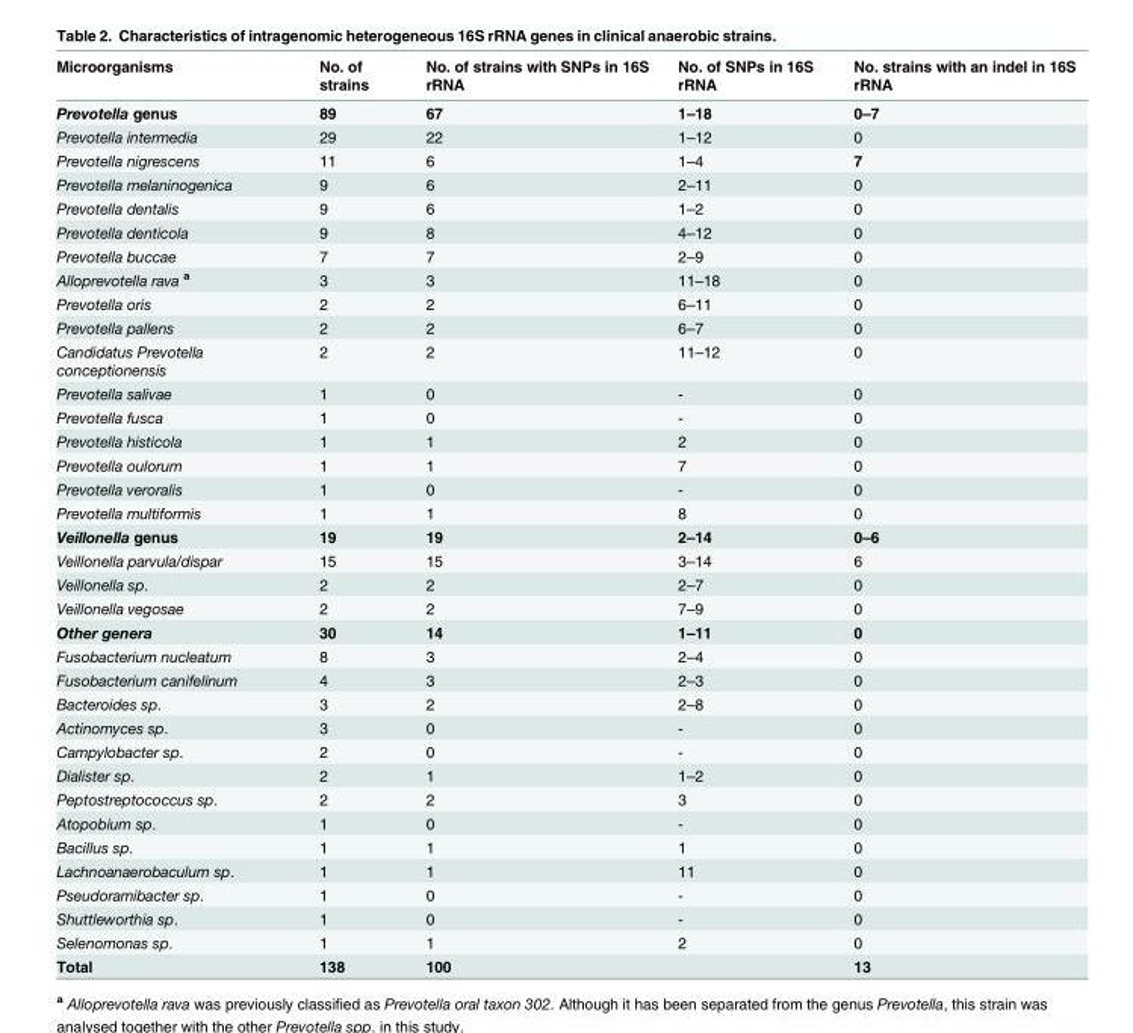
<table><thead><tr><td>Microorganisms</td><td>No. of strains</td><td>No. of strains with SNPs in 16S rRNA</td><td>No. of SNPs in 16S rRNA</td><td>No. strains with an indel in 16S rRNA</td></tr></thead><tbody><tr><td>Prevotella genus</td><td>89</td><td>67</td><td>1–18</td><td>0–7</td></tr><tr><td>Prevotella intermedia</td><td>29</td><td>22</td><td>1–12</td><td>0</td></tr><tr><td>Prevotella nigrescens</td><td>11</td><td>6</td><td>1–4</td><td>7</td></tr><tr><td>Prevotella melaninogenica</td><td>9</td><td>6</td><td>2–11</td><td>0</td></tr><tr><td>Prevotella dentalis</td><td>9</td><td>6</td><td>1–2</td><td>0</td></tr><tr><td>Prevotella denticola</td><td>9</td><td>8</td><td>4–12</td><td>0</td></tr><tr><td>Prevotella buccae</td><td>7</td><td>7</td><td>2–9</td><td>0</td></tr><tr><td>Alloprevotella rava <sup>a</sup></td><td>3</td><td>3</td><td>11–18</td><td>0</td></tr><tr><td>Prevotella oris</td><td>2</td><td>2</td><td>6–11</td><td>0</td></tr><tr><td>Prevotella pallens</td><td>2</td><td>2</td><td>6–7</td><td>0</td></tr><tr><td>Candidatus Prevotella conceptionensis</td><td>2</td><td>2</td><td>11–12</td><td>0</td></tr><tr><td>Prevotella salivae</td><td>1</td><td>0</td><td>-</td><td>0</td></tr><tr><td>Prevotella fusca</td><td>1</td><td>0</td><td>-</td><td>0</td></tr><tr><td>Prevotella histicola</td><td>1</td><td>1</td><td>2</td><td>0</td></tr><tr><td>Prevotella oulorum</td><td>1</td><td>1</td><td>7</td><td>0</td></tr><tr><td>Prevotella veroralis</td><td>1</td><td>0</td><td>-</td><td>0</td></tr><tr><td>Prevotella multiformis</td><td>1</td><td>1</td><td>8</td><td>0</td></tr><tr><td>Veillonella genus</td><td>19</td><td>19</td><td>2–14</td><td>0–6</td></tr><tr><td>Veillonella parvula/dispar</td><td>15</td><td>15</td><td>3–14</td><td>6</td></tr><tr><td>Veillonella sp.</td><td>2</td><td>2</td><td>2–7</td><td>0</td></tr><tr><td>Veillonella vegosae</td><td>2</td><td>2</td><td>7–9</td><td>0</td></tr><tr><td>Other genera</td><td>30</td><td>14</td><td>1–11</td><td>0</td></tr><tr><td>Fusobacterium nucleatum</td><td>8</td><td>3</td><td>2–4</td><td>0</td></tr><tr><td>Fusobacterium canifelinum</td><td>4</td><td>3</td><td>2–3</td><td>0</td></tr><tr><td>Bacteroides sp.</td><td>3</td><td>2</td><td>2–8</td><td>0</td></tr><tr><td>Actinomyces sp.</td><td>3</td><td>0</td><td>-</td><td>0</td></tr><tr><td>Campylobacter sp.</td><td>2</td><td>0</td><td>-</td><td>0</td></tr><tr><td>Dialister sp.</td><td>2</td><td>1</td><td>1–2</td><td>0</td></tr><tr><td>Peptostreptococcus sp.</td><td>2</td><td>2</td><td>3</td><td>0</td></tr><tr><td>Atopobium sp.</td><td>1</td><td>0</td><td>-</td><td>0</td></tr><tr><td>Bacillus sp.</td><td>1</td><td>1</td><td>1</td><td>0</td></tr><tr><td>Lachnoanaerobaculum sp.</td><td>1</td><td>1</td><td>11</td><td>0</td></tr><tr><td>Pseudoramibacter sp.</td><td>1</td><td>0</td><td>-</td><td>0</td></tr><tr><td>Shuttleworthia sp.</td><td>1</td><td>0</td><td>-</td><td>0</td></tr><tr><td>Selenomonas sp.</td><td>1</td><td>1</td><td>2</td><td>0</td></tr><tr><td>Total</td><td>138</td><td>100</td><td></td><td>13</td></tr></tbody></table>